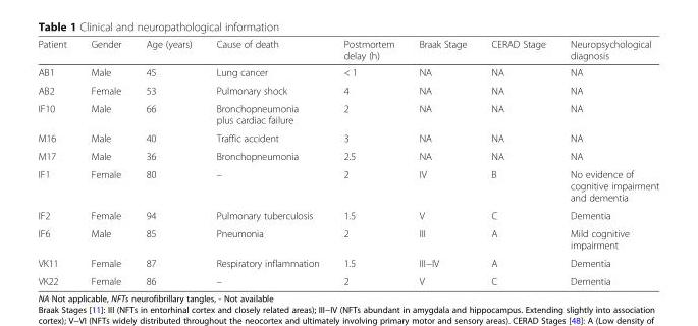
<table><thead><tr><td>Patient</td><td>Gender</td><td>Age (years)</td><td>Cause of death</td><td>Postmortem delay (h)</td><td>Braak Stage</td><td>CERAD Stage</td><td>Neuropsychological diagnosis</td></tr></thead><tbody><tr><td>AB1</td><td>Male</td><td>45</td><td>Lung cancer</td><td>&lt; 1</td><td>NA</td><td>NA</td><td>NA</td></tr><tr><td>AB2</td><td>Female</td><td>53</td><td>Pulmonary shock</td><td>4</td><td>NA</td><td>NA</td><td>NA</td></tr><tr><td>IF10</td><td>Male</td><td>66</td><td>Bronchopneumonia plus cardiac failure</td><td>2</td><td>NA</td><td>NA</td><td>NA</td></tr><tr><td>M16</td><td>Male</td><td>40</td><td>Traffic accident</td><td>3</td><td>NA</td><td>NA</td><td>NA</td></tr><tr><td>M17</td><td>Male</td><td>36</td><td>Bronchopneumonia</td><td>2.5</td><td>NA</td><td>NA</td><td>NA</td></tr><tr><td>IF1</td><td>Female</td><td>80</td><td>–</td><td>2</td><td>IV</td><td>B</td><td>No evidence of cognitive impairment and dementia</td></tr><tr><td>IF2</td><td>Female</td><td>94</td><td>Pulmonary tuberculosis</td><td>1.5</td><td>V</td><td>C</td><td>Dementia</td></tr><tr><td>IF6</td><td>Male</td><td>85</td><td>Pneumonia</td><td>2</td><td>III</td><td>A</td><td>Mild cognitive impairment</td></tr><tr><td>VK11</td><td>Female</td><td>87</td><td>Respiratory inflammation</td><td>1.5</td><td>III−IV</td><td>A</td><td>Dementia</td></tr><tr><td>VK22</td><td>Female</td><td>86</td><td>–</td><td>2</td><td>V</td><td>C</td><td>Dementia</td></tr></tbody></table>